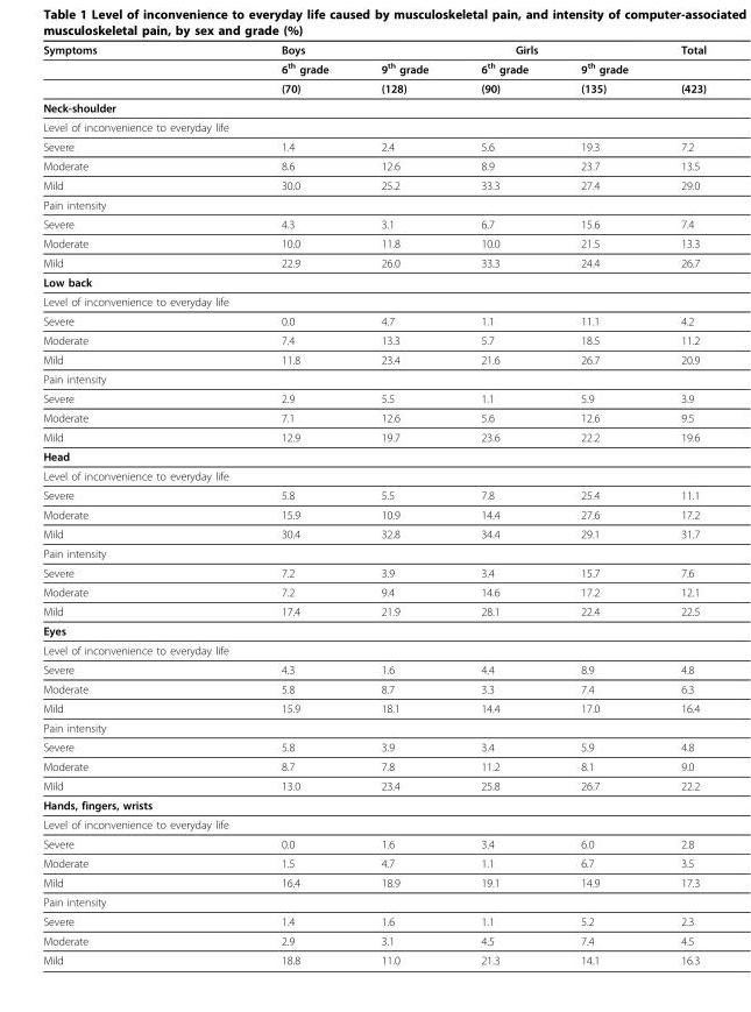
<table><thead><tr><td rowspan="2">Symptoms</td><td rowspan="2">Boys 6<sup>th</sup> grade</td><td colspan="3">Girls</td><td rowspan="2">Total</td></tr><tr><td>9<sup>th</sup> grade</td><td>6<sup>th</sup> grade</td><td>9<sup>th</sup> grade</td></tr></thead><tbody><tr><td></td><td>(70)</td><td>(128)</td><td>(90)</td><td>(135)</td><td>(423)</td></tr><tr><td colspan="6">Neck-shoulder</td></tr><tr><td colspan="6">Level of inconvenience to everyday life</td></tr><tr><td>Severe</td><td>1.4</td><td>2.4</td><td>5.6</td><td>19.3</td><td>7.2</td></tr><tr><td>Moderate</td><td>8.6</td><td>12.6</td><td>8.9</td><td>23.7</td><td>13.5</td></tr><tr><td>Mild</td><td>30.0</td><td>25.2</td><td>33.3</td><td>27.4</td><td>29.0</td></tr><tr><td colspan="6">Pain intensity</td></tr><tr><td>Severe</td><td>4.3</td><td>3.1</td><td>6.7</td><td>15.6</td><td>7.4</td></tr><tr><td>Moderate</td><td>10.0</td><td>11.8</td><td>10.0</td><td>21.5</td><td>13.3</td></tr><tr><td>Mild</td><td>22.9</td><td>26.0</td><td>33.3</td><td>24.4</td><td>26.7</td></tr><tr><td colspan="6">Low back</td></tr><tr><td colspan="6">Level of inconvenience to everyday life</td></tr><tr><td>Severe</td><td>0.0</td><td>4.7</td><td>1.1</td><td>11.1</td><td>4.2</td></tr><tr><td>Moderate</td><td>7.4</td><td>13.3</td><td>5.7</td><td>18.5</td><td>11.2</td></tr><tr><td>Mild</td><td>11.8</td><td>23.4</td><td>21.6</td><td>26.7</td><td>20.9</td></tr><tr><td colspan="6">Pain intensity</td></tr><tr><td>Severe</td><td>2.9</td><td>5.5</td><td>1.1</td><td>5.9</td><td>3.9</td></tr><tr><td>Moderate</td><td>7.1</td><td>12.6</td><td>5.6</td><td>12.6</td><td>9.5</td></tr><tr><td>Mild</td><td>12.9</td><td>19.7</td><td>23.6</td><td>22.2</td><td>19.6</td></tr><tr><td colspan="6">Head</td></tr><tr><td colspan="6">Level of inconvenience to everyday life</td></tr><tr><td>Severe</td><td>5.8</td><td>5.5</td><td>7.8</td><td>25.4</td><td>11.1</td></tr><tr><td>Moderate</td><td>15.9</td><td>10.9</td><td>14.4</td><td>27.6</td><td>17.2</td></tr><tr><td>Mild</td><td>30.4</td><td>32.8</td><td>34.4</td><td>29.1</td><td>31.7</td></tr><tr><td colspan="6">Pain intensity</td></tr><tr><td>Severe</td><td>7.2</td><td>3.9</td><td>3.4</td><td>15.7</td><td>7.6</td></tr><tr><td>Moderate</td><td>7.2</td><td>9.4</td><td>14.6</td><td>17.2</td><td>12.1</td></tr><tr><td>Mild</td><td>17.4</td><td>21.9</td><td>28.1</td><td>22.4</td><td>22.5</td></tr><tr><td colspan="6">Eyes</td></tr><tr><td colspan="6">Level of inconvenience to everyday life</td></tr><tr><td>Severe</td><td>4.3</td><td>1.6</td><td>4.4</td><td>8.9</td><td>4.8</td></tr><tr><td>Moderate</td><td>5.8</td><td>8.7</td><td>3.3</td><td>7.4</td><td>6.3</td></tr><tr><td>Mild</td><td>15.9</td><td>18.1</td><td>14.4</td><td>17.0</td><td>16.4</td></tr><tr><td colspan="6">Pain intensity</td></tr><tr><td>Severe</td><td>5.8</td><td>3.9</td><td>3.4</td><td>5.9</td><td>4.8</td></tr><tr><td>Moderate</td><td>8.7</td><td>7.8</td><td>11.2</td><td>8.1</td><td>9.0</td></tr><tr><td>Mild</td><td>13.0</td><td>23.4</td><td>25.8</td><td>26.7</td><td>22.2</td></tr><tr><td colspan="6">Hands, fingers, wrists</td></tr><tr><td colspan="6">Level of inconvenience to everyday life</td></tr><tr><td>Severe</td><td>0.0</td><td>1.6</td><td>3.4</td><td>6.0</td><td>2.8</td></tr><tr><td>Moderate</td><td>1.5</td><td>4.7</td><td>1.1</td><td>6.7</td><td>3.5</td></tr><tr><td>Mild</td><td>16.4</td><td>18.9</td><td>19.1</td><td>14.9</td><td>17.3</td></tr><tr><td colspan="6">Pain intensity</td></tr><tr><td>Severe</td><td>1.4</td><td>1.6</td><td>1.1</td><td>5.2</td><td>2.3</td></tr><tr><td>Moderate</td><td>2.9</td><td>3.1</td><td>4.5</td><td>7.4</td><td>4.5</td></tr><tr><td>Mild</td><td>18.8</td><td>11.0</td><td>21.3</td><td>14.1</td><td>16.3</td></tr></tbody></table>